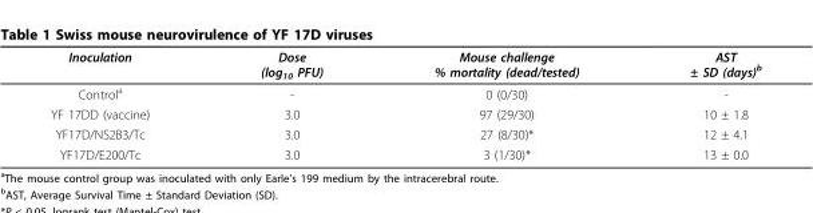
<table><thead><tr><td>Inoculation</td><td>Dose (log<sub>10</sub> PFU)</td><td>Mouse challenge % mortality (dead/tested)</td><td>AST ± SD (days)<sup>b</sup></td></tr></thead><tbody><tr><td>Control<sup>a</sup></td><td>-</td><td>0 (0/30)</td><td>-</td></tr><tr><td>YF 17DD (vaccine)</td><td>3.0</td><td>97 (29/30)</td><td>10 ± 1.8</td></tr><tr><td>YF17D/NS2B3/Tc</td><td>3.0</td><td>27 (8/30)*</td><td>12 ± 4.1</td></tr><tr><td>YF17D/E200/Tc</td><td>3.0</td><td>3 (1/30)*</td><td>13 ± 0.0</td></tr></tbody></table>